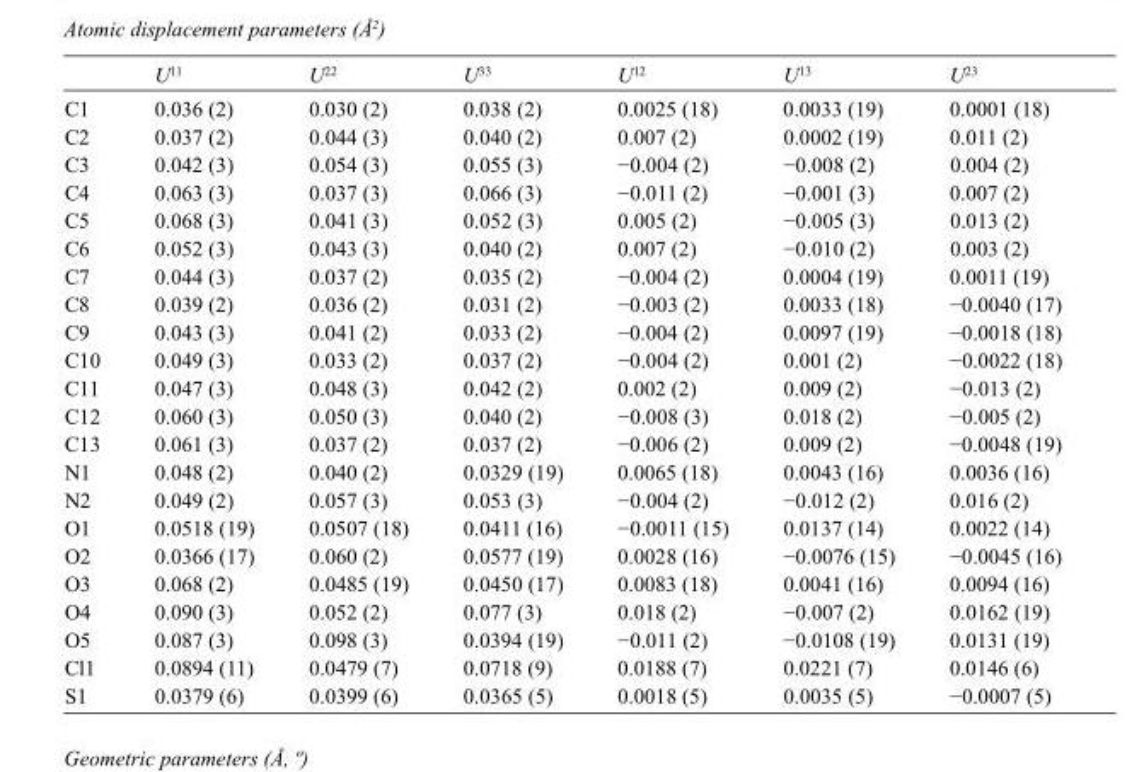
<table><thead><tr><td></td><td>U<sup>11</sup></td><td>U<sup>22</sup></td><td>U<sup>33</sup></td><td>U<sup>12</sup></td><td>U<sup>13</sup></td><td>U<sup>23</sup></td></tr></thead><tbody><tr><td>C1</td><td>0.036 (2)</td><td>0.030 (2)</td><td>0.038 (2)</td><td>0.0025 (18)</td><td>0.0033 (19)</td><td>0.0001 (18)</td></tr><tr><td>C2</td><td>0.037 (2)</td><td>0.044 (3)</td><td>0.040 (2)</td><td>0.007 (2)</td><td>0.0002 (19)</td><td>0.011 (2)</td></tr><tr><td>C3</td><td>0.042 (3)</td><td>0.054 (3)</td><td>0.055 (3)</td><td>−0.004 (2)</td><td>−0.008 (2)</td><td>0.004 (2)</td></tr><tr><td>C4</td><td>0.063 (3)</td><td>0.037 (3)</td><td>0.066 (3)</td><td>−0.011 (2)</td><td>−0.001 (3)</td><td>0.007 (2)</td></tr><tr><td>C5</td><td>0.068 (3)</td><td>0.041 (3)</td><td>0.052 (3)</td><td>0.005 (2)</td><td>−0.005 (3)</td><td>0.013 (2)</td></tr><tr><td>C6</td><td>0.052 (3)</td><td>0.043 (3)</td><td>0.040 (2)</td><td>0.007 (2)</td><td>−0.010 (2)</td><td>0.003 (2)</td></tr><tr><td>C7</td><td>0.044 (3)</td><td>0.037 (2)</td><td>0.035 (2)</td><td>−0.004 (2)</td><td>0.0004 (19)</td><td>0.0011 (19)</td></tr><tr><td>C8</td><td>0.039 (2)</td><td>0.036 (2)</td><td>0.031 (2)</td><td>−0.003 (2)</td><td>0.0033 (18)</td><td>−0.0040 (17)</td></tr><tr><td>C9</td><td>0.043 (3)</td><td>0.041 (2)</td><td>0.033 (2)</td><td>−0.004 (2)</td><td>0.0097 (19)</td><td>−0.0018 (18)</td></tr><tr><td>C10</td><td>0.049 (3)</td><td>0.033 (2)</td><td>0.037 (2)</td><td>−0.004 (2)</td><td>0.001 (2)</td><td>−0.0022 (18)</td></tr><tr><td>C11</td><td>0.047 (3)</td><td>0.048 (3)</td><td>0.042 (2)</td><td>0.002 (2)</td><td>0.009 (2)</td><td>−0.013 (2)</td></tr><tr><td>C12</td><td>0.060 (3)</td><td>0.050 (3)</td><td>0.040 (2)</td><td>−0.008 (3)</td><td>0.018 (2)</td><td>−0.005 (2)</td></tr><tr><td>C13</td><td>0.061 (3)</td><td>0.037 (2)</td><td>0.037 (2)</td><td>−0.006 (2)</td><td>0.009 (2)</td><td>−0.0048 (19)</td></tr><tr><td>N1</td><td>0.048 (2)</td><td>0.040 (2)</td><td>0.0329 (19)</td><td>0.0065 (18)</td><td>0.0043 (16)</td><td>0.0036 (16)</td></tr><tr><td>N2</td><td>0.049 (2)</td><td>0.057 (3)</td><td>0.053 (3)</td><td>−0.004 (2)</td><td>−0.012 (2)</td><td>0.016 (2)</td></tr><tr><td>O1</td><td>0.0518 (19)</td><td>0.0507 (18)</td><td>0.0411 (16)</td><td>−0.0011 (15)</td><td>0.0137 (14)</td><td>0.0022 (14)</td></tr><tr><td>O2</td><td>0.0366 (17)</td><td>0.060 (2)</td><td>0.0577 (19)</td><td>0.0028 (16)</td><td>−0.0076 (15)</td><td>−0.0045 (16)</td></tr><tr><td>O3</td><td>0.068 (2)</td><td>0.0485 (19)</td><td>0.0450 (17)</td><td>0.0083 (18)</td><td>0.0041 (16)</td><td>0.0094 (16)</td></tr><tr><td>O4</td><td>0.090 (3)</td><td>0.052 (2)</td><td>0.077 (3)</td><td>0.018 (2)</td><td>−0.007 (2)</td><td>0.0162 (19)</td></tr><tr><td>O5</td><td>0.087 (3)</td><td>0.098 (3)</td><td>0.0394 (19)</td><td>−0.011 (2)</td><td>−0.0108 (19)</td><td>0.0131 (19)</td></tr><tr><td>Cl1</td><td>0.0894 (11)</td><td>0.0479 (7)</td><td>0.0718 (9)</td><td>0.0188 (7)</td><td>0.0221 (7)</td><td>0.0146 (6)</td></tr><tr><td>S1</td><td>0.0379 (6)</td><td>0.0399 (6)</td><td>0.0365 (5)</td><td>0.0018 (5)</td><td>0.0035 (5)</td><td>−0.0007 (5)</td></tr></tbody></table>